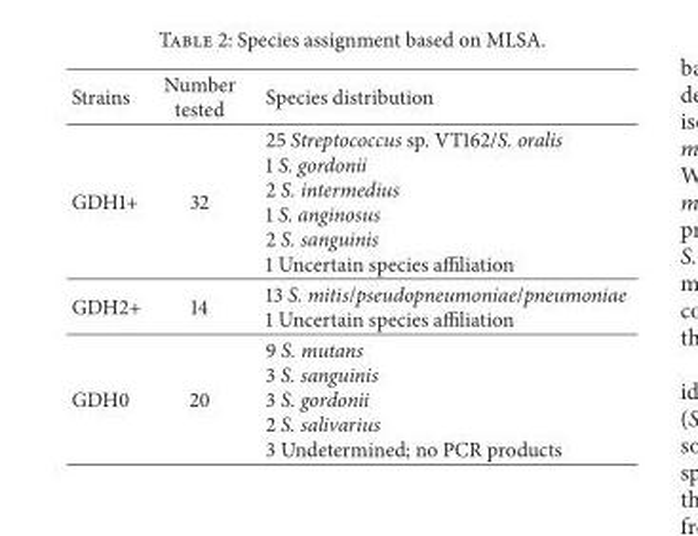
<table><thead><tr><td>Strains</td><td>Number tested</td><td>Species distribution</td></tr></thead><tbody><tr><td>GDH1+</td><td>32</td><td>25 Streptococcus sp. VT162/S. oralis 1 S. gordonii 2 S. intermedius 1 S. anginosus 2 S. sanguinis 1 Uncertain species affiliation</td></tr><tr><td>GDH2+</td><td>14</td><td>13 S. mitis/pseudopneumoniae/pneumoniae 1 Uncertain species affiliation</td></tr><tr><td>GDH0</td><td>20</td><td>9 S. mutans 3 S. sanguinis 3 S. gordonii 2 S. salivarius 3 Undetermined; no PCR products</td></tr></tbody></table>